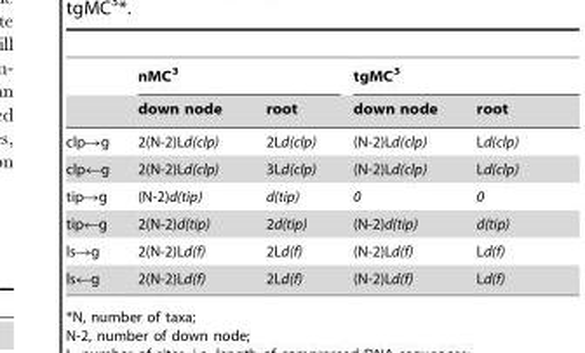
<table><thead><tr><td rowspan="2"></td><td colspan="2">nMC<sup>3</sup></td><td colspan="2">tgMC<sup>3</sup></td></tr><tr><td>down node</td><td>root</td><td>down node</td><td>root</td></tr></thead><tbody><tr><td>clp→g</td><td>2(N-2)Ld(clp)</td><td>2Ld(clp)</td><td>(N-2)Ld(clp)</td><td>Ld(clp)</td></tr><tr><td>clp←g</td><td>2(N-2)Ld(clp)</td><td>3Ld(clp)</td><td>(N-2)Ld(clp)</td><td>Ld(clp)</td></tr><tr><td>tip→g</td><td>(N-2)d(tip)</td><td>d(tip)</td><td>0</td><td>0</td></tr><tr><td>tip←g</td><td>2(N-2)d(tip)</td><td>2d(tip)</td><td>(N-2)d(tip)</td><td>d(tip)</td></tr><tr><td>ls→g</td><td>2(N-2)Ld(f)</td><td>2Ld(f)</td><td>(N-2)Ld(f)</td><td>Ld(f)</td></tr><tr><td>ls←g</td><td>2(N-2)Ld(f)</td><td>2Ld(f)</td><td>(N-2)Ld(f)</td><td>Ld(f)</td></tr></tbody></table>